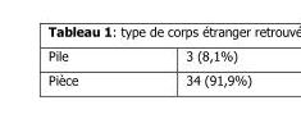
<table><tbody><tr><td>Pile</td><td>3 (8,1%)</td></tr><tr><td>Pièce</td><td>34 (91,9%)</td></tr></tbody></table>